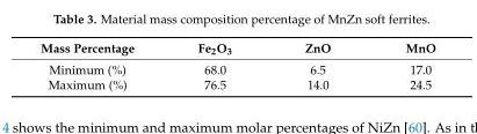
<table><thead><tr><td>Mass Percentage</td><td>Fe<sub>2</sub>O<sub>3</sub></td><td>ZnO</td><td>MnO</td></tr></thead><tbody><tr><td>Minimum (%)</td><td>68.0</td><td>6.5</td><td>17.0</td></tr><tr><td>Maximum (%)</td><td>76.5</td><td>14.0</td><td>24.5</td></tr></tbody></table>